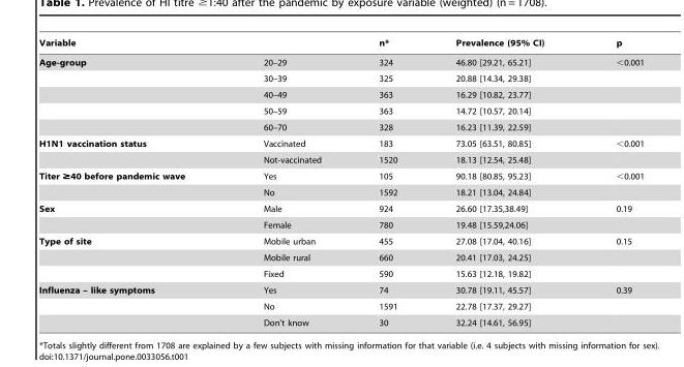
<table><thead><tr><td>Variable</td><td></td><td>n*</td><td>Prevalence (95% CI)</td><td>p</td></tr></thead><tbody><tr><td rowspan="5">Age-group</td><td>20–29</td><td>324</td><td>46.80 [29.21, 65.21]</td><td>&lt;0.001</td></tr><tr><td>30–39</td><td>325</td><td>20.88 [14.34, 29.38]</td><td></td></tr><tr><td>40–49</td><td>363</td><td>16.29 [10.82, 23.77]</td><td></td></tr><tr><td>50–59</td><td>363</td><td>14.72 [10.57, 20.14]</td><td></td></tr><tr><td>60–70</td><td>328</td><td>16.23 [11.39, 22.59]</td><td></td></tr><tr><td rowspan="2">H1N1 vaccination status</td><td>Vaccinated</td><td>183</td><td>73.05 [63.51, 80.85]</td><td>&lt;0.001</td></tr><tr><td>Not-vaccinated</td><td>1520</td><td>18.13 [12.54, 25.48]</td><td></td></tr><tr><td rowspan="2">Titer ≥40 before pandemic wave</td><td>Yes</td><td>105</td><td>90.18 [80.85, 95.23]</td><td>&lt;0.001</td></tr><tr><td>No</td><td>1592</td><td>18.21 [13.04, 24.84]</td><td></td></tr><tr><td rowspan="2">Sex</td><td>Male</td><td>924</td><td>26.60 [17.35,38.49]</td><td>0.19</td></tr><tr><td>Female</td><td>780</td><td>19.48 [15.59,24.06]</td><td></td></tr><tr><td rowspan="3">Type of site</td><td>Mobile urban</td><td>455</td><td>27.08 [17.04, 40.16]</td><td>0.15</td></tr><tr><td>Mobile rural</td><td>660</td><td>20.41 [17.03, 24.25]</td><td></td></tr><tr><td>Fixed</td><td>590</td><td>15.63 [12.18, 19.82]</td><td></td></tr><tr><td rowspan="3">Influenza – like symptoms</td><td>Yes</td><td>74</td><td>30.78 [19.11, 45.57]</td><td>0.39</td></tr><tr><td>No</td><td>1591</td><td>22.78 [17.37, 29.27]</td><td></td></tr><tr><td>Don’t know</td><td>30</td><td>32.24 [14.61, 56.95]</td><td></td></tr></tbody></table>